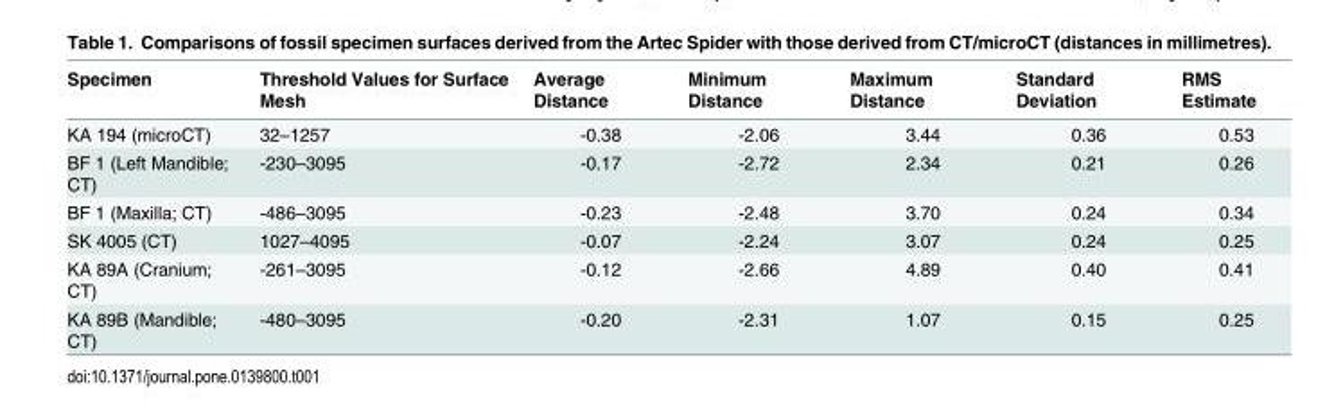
<table><thead><tr><td>Specimen</td><td>Threshold Values for Surface Mesh</td><td>Average Distance</td><td>Minimum Distance</td><td>Maximum Distance</td><td>Standard Deviation</td><td>RMS Estimate</td></tr></thead><tbody><tr><td>KA 194 (microCT)</td><td>32–1257</td><td>-0.38</td><td>-2.06</td><td>3.44</td><td>0.36</td><td>0.53</td></tr><tr><td>BF 1 (Left Mandible; CT)</td><td>-230–3095</td><td>-0.17</td><td>-2.72</td><td>2.34</td><td>0.21</td><td>0.26</td></tr><tr><td>BF 1 (Maxilla; CT)</td><td>-486–3095</td><td>-0.23</td><td>-2.48</td><td>3.70</td><td>0.24</td><td>0.34</td></tr><tr><td>SK 4005 (CT)</td><td>1027–4095</td><td>-0.07</td><td>-2.24</td><td>3.07</td><td>0.24</td><td>0.25</td></tr><tr><td>KA 89A (Cranium; CT)</td><td>-261–3095</td><td>-0.12</td><td>-2.66</td><td>4.89</td><td>0.40</td><td>0.41</td></tr><tr><td>KA 89B (Mandible; CT)</td><td>-480–3095</td><td>-0.20</td><td>-2.31</td><td>1.07</td><td>0.15</td><td>0.25</td></tr></tbody></table>